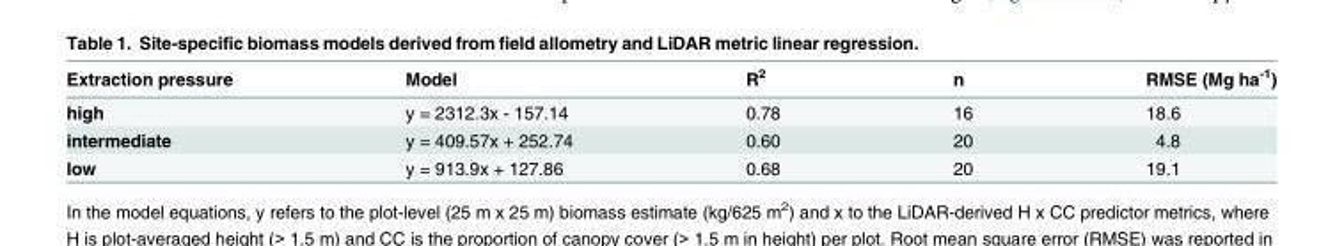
<table><thead><tr><td>Extraction pressure</td><td>Model</td><td>R<sup>2</sup></td><td>n</td><td>RMSE (Mg ha<sup>-1</sup>)</td></tr></thead><tbody><tr><td>high</td><td>y = 2312.3x - 157.14</td><td>0.78</td><td>16</td><td>18.6</td></tr><tr><td>intermediate</td><td>y = 409.57x + 252.74</td><td>0.60</td><td>20</td><td>4.8</td></tr><tr><td>low</td><td>y = 913.9x + 127.86</td><td>0.68</td><td>20</td><td>19.1</td></tr></tbody></table>